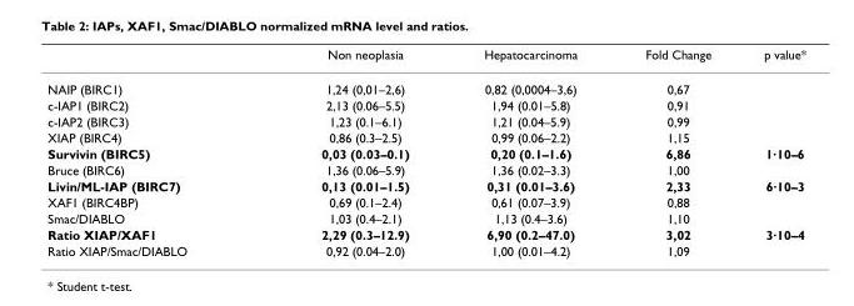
<table><thead><tr><td></td><td>Non neoplasia</td><td>Hepatocarcinoma</td><td>Fold Change</td><td>p value*</td></tr></thead><tbody><tr><td>NAIP (BIRC1)</td><td>1,24 (0,01–2,6)</td><td>0,82 (0,0004–3,6)</td><td>0,67</td><td></td></tr><tr><td>c-IAP1 (BIRC2)</td><td>2,13 (0.06–5.5)</td><td>1,94 (0.01–5.8)</td><td>0,91</td><td></td></tr><tr><td>c-IAP2 (BIRC3)</td><td>1,23 (0.1–6.1)</td><td>1,21 (0.04–5.9)</td><td>0,99</td><td></td></tr><tr><td>XIAP (BIRC4)</td><td>0,86 (0.3–2.5)</td><td>0,99 (0.06–2.2)</td><td>1,15</td><td></td></tr><tr><td>Survivin (BIRC5)</td><td>0,03 (0.03–0.1)</td><td>0,20 (0.1–1.6)</td><td>6,86</td><td>1·10–6</td></tr><tr><td>Bruce (BIRC6)</td><td>1,36 (0.06–5.9)</td><td>1,36 (0.02–3.3)</td><td>1,00</td><td></td></tr><tr><td>Livin/ML-IAP (BIRC7)</td><td>0,13 (0.01–1.5)</td><td>0,31 (0.01–3.6)</td><td>2,33</td><td>6·10–3</td></tr><tr><td>XAF1 (BIRC4BP)</td><td>0,69 (0.1–2.4)</td><td>0,61 (0.07–3.9)</td><td>0,88</td><td></td></tr><tr><td>Smac/DIABLO</td><td>1,03 (0.4–2.1)</td><td>1,13 (0.4–3.6)</td><td>1,10</td><td></td></tr><tr><td>Ratio XIAP/XAF1</td><td>2,29 (0.3–12.9)</td><td>6,90 (0.2–47.0)</td><td>3,02</td><td>3·10–4</td></tr><tr><td>Ratio XIAP/Smac/DIABLO</td><td>0,92 (0.04–2.0)</td><td>1,00 (0.01–4.2)</td><td>1,09</td><td></td></tr></tbody></table>